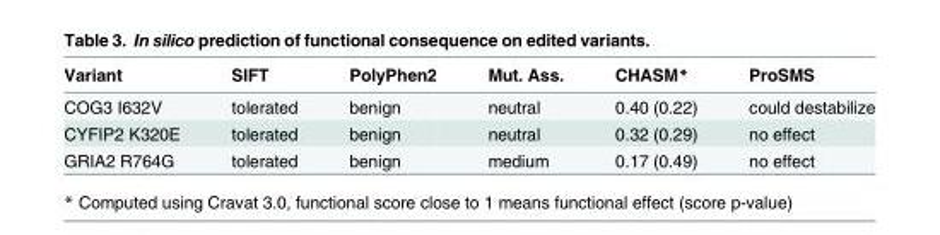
<table><thead><tr><td>Variant</td><td>SIFT</td><td>PolyPhen2</td><td>Mut. Ass.</td><td>CHASM*</td><td>ProSMS</td></tr></thead><tbody><tr><td>COG3 I632V</td><td>tolerated</td><td>benign</td><td>neutral</td><td>0.40 (0.22)</td><td>could destabilize</td></tr><tr><td>CYFIP2 K320E</td><td>tolerated</td><td>benign</td><td>neutral</td><td>0.32 (0.29)</td><td>no effect</td></tr><tr><td>GRIA2 R764G</td><td>tolerated</td><td>benign</td><td>medium</td><td>0.17 (0.49)</td><td>no effect</td></tr></tbody></table>